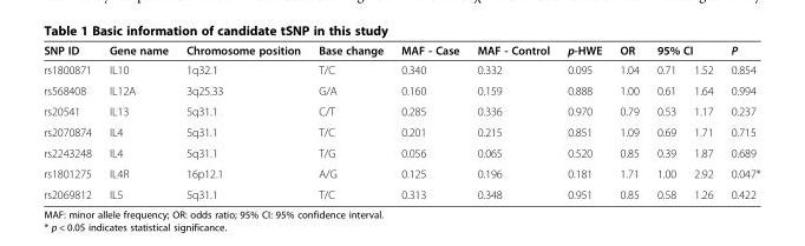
<table><thead><tr><td rowspan="2">SNP ID rs1800871</td><td rowspan="2">Gene name IL10</td><td rowspan="2">Chromosome position 1q32.1</td><td rowspan="2">Base change T/C</td><td rowspan="2">MAF - Case 0.340</td><td rowspan="2">MAF - Control 0.332</td><td rowspan="2">p-HWE 0.095</td><td rowspan="2">OR 1.04</td><td colspan="2">95% CI</td><td rowspan="2">P 0.854</td></tr><tr><td>0.71</td><td>1.52</td></tr></thead><tbody><tr><td>rs568408</td><td>IL12A</td><td>3q25.33</td><td>G/A</td><td>0.160</td><td>0.159</td><td>0.888</td><td>1.00</td><td>0.61</td><td>1.64</td><td>0.994</td></tr><tr><td>rs20541</td><td>IL13</td><td>5q31.1</td><td>C/T</td><td>0.285</td><td>0.336</td><td>0.970</td><td>0.79</td><td>0.53</td><td>1.17</td><td>0.237</td></tr><tr><td>rs2070874</td><td>IL4</td><td>5q31.1</td><td>T/C</td><td>0.201</td><td>0.215</td><td>0.851</td><td>1.09</td><td>0.69</td><td>1.71</td><td>0.715</td></tr><tr><td>rs2243248</td><td>IL4</td><td>5q31.1</td><td>T/G</td><td>0.056</td><td>0.065</td><td>0.520</td><td>0.85</td><td>0.39</td><td>1.87</td><td>0.689</td></tr><tr><td>rs1801275</td><td>IL4R</td><td>16p12.1</td><td>A/G</td><td>0.125</td><td>0.196</td><td>0.181</td><td>1.71</td><td>1.00</td><td>2.92</td><td>0.047*</td></tr><tr><td>rs2069812</td><td>IL5</td><td>5q31.1</td><td>T/C</td><td>0.313</td><td>0.348</td><td>0.951</td><td>0.85</td><td>0.58</td><td>1.26</td><td>0.422</td></tr></tbody></table>